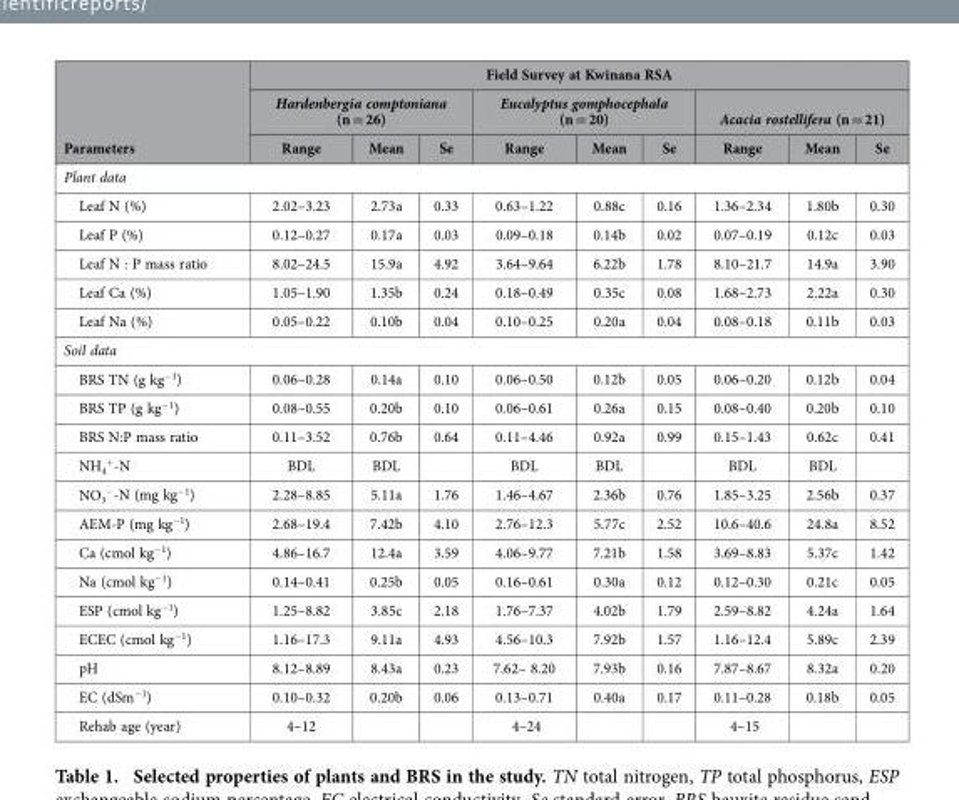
<table><thead><tr><td rowspan="3">Parameters</td><td colspan="9">Field Survey at Kwinana RSA</td></tr><tr><td colspan="3">Hardenbergia comptoniana (n = 26)</td><td colspan="3">Eucalyptus gomphocephala (n = 20)</td><td colspan="3">Acacia rostellifera (n = 21)</td></tr><tr><td>Range</td><td>Mean</td><td>Se</td><td>Range</td><td>Mean</td><td>Se</td><td>Range</td><td>Mean</td><td>Se</td></tr></thead><tbody><tr><td colspan="10">Plant data</td></tr><tr><td>Leaf N (%)</td><td>2.02–3.23</td><td>2.73a</td><td>0.33</td><td>0.63–1.22</td><td>0.88c</td><td>0.16</td><td>1.36–2.34</td><td>1.80b</td><td>0.30</td></tr><tr><td>Leaf P (%)</td><td>0.12–0.27</td><td>0.17a</td><td>0.03</td><td>0.09–0.18</td><td>0.14b</td><td>0.02</td><td>0.07–0.19</td><td>0.12c</td><td>0.03</td></tr><tr><td>Leaf N : P mass ratio</td><td>8.02–24.5</td><td>15.9a</td><td>4.92</td><td>3.64–9.64</td><td>6.22b</td><td>1.78</td><td>8.10–21.7</td><td>14.9a</td><td>3.90</td></tr><tr><td>Leaf Ca (%)</td><td>1.05–1.90</td><td>1.35b</td><td>0.24</td><td>0.18–0.49</td><td>0.35c</td><td>0.08</td><td>1.68–2.73</td><td>2.22a</td><td>0.30</td></tr><tr><td>Leaf Na (%)</td><td>0.05–0.22</td><td>0.10b</td><td>0.04</td><td>0.10–0.25</td><td>0.20a</td><td>0.04</td><td>0.08–0.18</td><td>0.11b</td><td>0.03</td></tr><tr><td colspan="10">Soil data</td></tr><tr><td>BRS TN (g kg<sup>−1</sup>)</td><td>0.06–0.28</td><td>0.14a</td><td>0.10</td><td>0.06–0.50</td><td>0.12b</td><td>0.05</td><td>0.06–0.20</td><td>0.12b</td><td>0.04</td></tr><tr><td>BRS TP (g kg<sup>−1</sup>)</td><td>0.08–0.55</td><td>0.20b</td><td>0.10</td><td>0.06–0.61</td><td>0.26a</td><td>0.15</td><td>0.08–0.40</td><td>0.20b</td><td>0.10</td></tr><tr><td>BRS N:P mass ratio</td><td>0.11–3.52</td><td>0.76b</td><td>0.64</td><td>0.11–4.46</td><td>0.92a</td><td>0.99</td><td>0.15–1.43</td><td>0.62c</td><td>0.41</td></tr><tr><td>NH<sub>4</sub> <sup>+</sup>-N</td><td>BDL</td><td>BDL</td><td></td><td>BDL</td><td>BDL</td><td></td><td>BDL</td><td>BDL</td><td></td></tr><tr><td>NO<sub>3</sub> <sup>−</sup>-N (mg kg<sup>−1</sup>)</td><td>2.28–8.85</td><td>5.11a</td><td>1.76</td><td>1.46–4.67</td><td>2.36b</td><td>0.76</td><td>1.85–3.25</td><td>2.56b</td><td>0.37</td></tr><tr><td>AEM-P (mg kg<sup>−1</sup>)</td><td>2.68–19.4</td><td>7.42b</td><td>4.10</td><td>2.76–12.3</td><td>5.77c</td><td>2.52</td><td>10.6–40.6</td><td>24.8a</td><td>8.52</td></tr><tr><td>Ca (cmol kg<sup>−1</sup>)</td><td>4.86–16.7</td><td>12.4a</td><td>3.59</td><td>4.06–9.77</td><td>7.21b</td><td>1.58</td><td>3.69–8.83</td><td>5.37c</td><td>1.42</td></tr><tr><td>Na (cmol kg<sup>−1</sup>)</td><td>0.14–0.41</td><td>0.25b</td><td>0.05</td><td>0.16–0.61</td><td>0.30a</td><td>0.12</td><td>0.12–0.30</td><td>0.21c</td><td>0.05</td></tr><tr><td>ESP (cmol kg<sup>−1</sup>)</td><td>1.25–8.82</td><td>3.85c</td><td>2.18</td><td>1.76–7.37</td><td>4.02b</td><td>1.79</td><td>2.59–8.82</td><td>4.24a</td><td>1.64</td></tr><tr><td>ECEC (cmol kg<sup>−1</sup>)</td><td>1.16–17.3</td><td>9.11a</td><td>4.93</td><td>4.56–10.3</td><td>7.92b</td><td>1.57</td><td>1.16–12.4</td><td>5.89c</td><td>2.39</td></tr><tr><td>pH</td><td>8.12–8.89</td><td>8.43a</td><td>0.23</td><td>7.62– 8.20</td><td>7.93b</td><td>0.16</td><td>7.87–8.67</td><td>8.32a</td><td>0.20</td></tr><tr><td>EC (dSm<sup>−1</sup>)</td><td>0.10–0.32</td><td>0.20b</td><td>0.06</td><td>0.13–0.71</td><td>0.40a</td><td>0.17</td><td>0.11–0.28</td><td>0.18b</td><td>0.05</td></tr><tr><td>Rehab age (year)</td><td>4–12</td><td></td><td></td><td>4–24</td><td></td><td></td><td>4–15</td><td></td><td></td></tr></tbody></table>